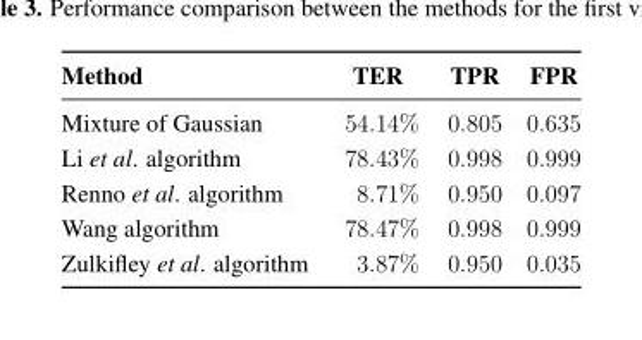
<table><thead><tr><td>Method</td><td>TER</td><td>TPR</td><td>FPR</td></tr></thead><tbody><tr><td>Mixture of Gaussian</td><td>54.14%</td><td>0.805</td><td>0.635</td></tr><tr><td>Li et al. algorithm</td><td>78.43%</td><td>0.998</td><td>0.999</td></tr><tr><td>Renno et al. algorithm</td><td>8.71%</td><td>0.950</td><td>0.097</td></tr><tr><td>Wang algorithm</td><td>78.47%</td><td>0.998</td><td>0.999</td></tr><tr><td>Zulkifley et al. algorithm</td><td>3.87%</td><td>0.950</td><td>0.035</td></tr></tbody></table>